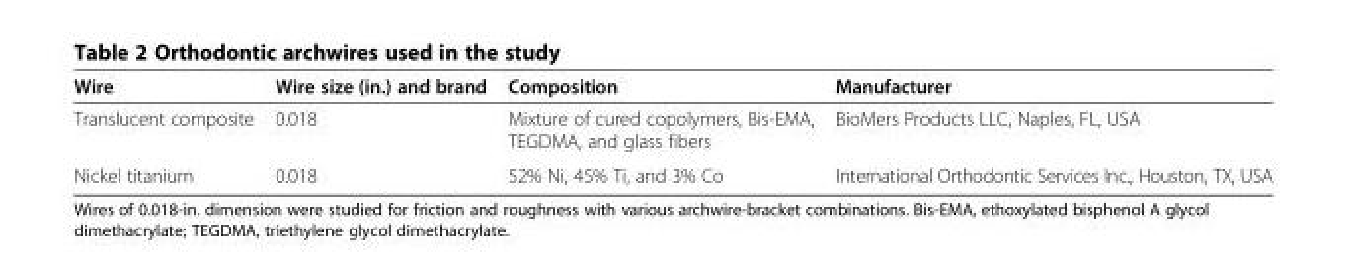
<table><thead><tr><td>Wire</td><td>Wire size (in.) and brand</td><td>Composition</td><td>Manufacturer</td></tr></thead><tbody><tr><td>Translucent composite</td><td>0.018</td><td>Mixture of cured copolymers, Bis-EMA, TEGDMA, and glass fibers</td><td>BioMers Products LLC, Naples, FL, USA</td></tr><tr><td>Nickel titanium</td><td>0.018</td><td>52% Ni, 45% Ti, and 3% Co</td><td>International Orthodontic Services Inc., Houston, TX, USA</td></tr></tbody></table>